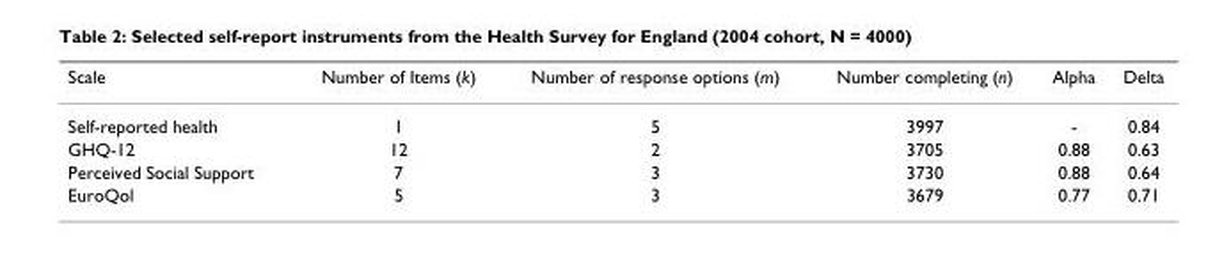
<table><thead><tr><td>Scale</td><td>Number of Items (k)</td><td>Number of response options (m)</td><td>Number completing (n)</td><td>Alpha</td><td>Delta</td></tr></thead><tbody><tr><td>Self-reported health</td><td>1</td><td>5</td><td>3997</td><td>-</td><td>0.84</td></tr><tr><td>GHQ-12</td><td>12</td><td>2</td><td>3705</td><td>0.88</td><td>0.63</td></tr><tr><td>Perceived Social Support</td><td>7</td><td>3</td><td>3730</td><td>0.88</td><td>0.64</td></tr><tr><td>EuroQol</td><td>5</td><td>3</td><td>3679</td><td>0.77</td><td>0.71</td></tr></tbody></table>